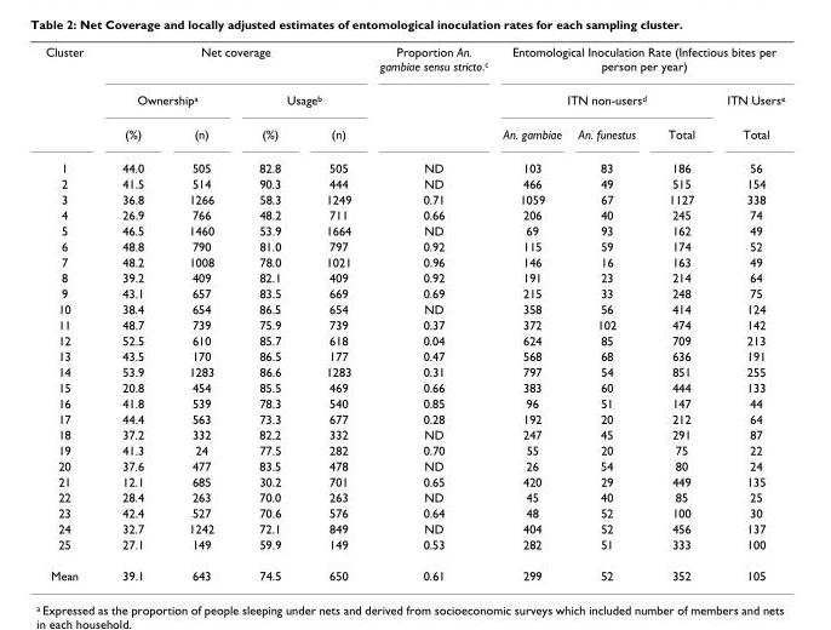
<table><tbody><tr><td rowspan="3">Cluster</td><td colspan="4">Net coverage</td><td>Proportion An. gambiae sensu stricto.<sup>c</sup></td><td colspan="4">Entomological Inoculation Rate (Infectious bites per person per year)</td></tr><tr><td colspan="2">Ownership<sup>a</sup></td><td colspan="2">Usage<sup>b</sup></td><td></td><td colspan="3">ITN non-users<sup>d</sup></td><td>ITN Users<sup>e</sup></td></tr><tr><td>(%)</td><td>(n)</td><td>(%)</td><td>(n)</td><td></td><td>An. gambiae</td><td>An. funestus</td><td>Total</td><td>Total</td></tr><tr><td>1</td><td>44.0</td><td>505</td><td>82.8</td><td>505</td><td>ND</td><td>103</td><td>83</td><td>186</td><td>56</td></tr><tr><td>2</td><td>41.5</td><td>514</td><td>90.3</td><td>444</td><td>ND</td><td>466</td><td>49</td><td>515</td><td>154</td></tr><tr><td>3</td><td>36.8</td><td>1266</td><td>58.3</td><td>1249</td><td>0.71</td><td>1059</td><td>67</td><td>1127</td><td>338</td></tr><tr><td>4</td><td>26.9</td><td>766</td><td>48.2</td><td>711</td><td>0.66</td><td>206</td><td>40</td><td>245</td><td>74</td></tr><tr><td>5</td><td>46.5</td><td>1460</td><td>53.9</td><td>1664</td><td>ND</td><td>69</td><td>93</td><td>162</td><td>49</td></tr><tr><td>6</td><td>48.8</td><td>790</td><td>81.0</td><td>797</td><td>0.92</td><td>115</td><td>59</td><td>174</td><td>52</td></tr><tr><td>7</td><td>48.2</td><td>1008</td><td>78.0</td><td>1021</td><td>0.96</td><td>146</td><td>16</td><td>163</td><td>49</td></tr><tr><td>8</td><td>39.2</td><td>409</td><td>82.1</td><td>409</td><td>0.92</td><td>191</td><td>23</td><td>214</td><td>64</td></tr><tr><td>9</td><td>43.1</td><td>657</td><td>83.5</td><td>669</td><td>0.69</td><td>215</td><td>33</td><td>248</td><td>75</td></tr><tr><td>10</td><td>38.4</td><td>654</td><td>86.5</td><td>654</td><td>ND</td><td>358</td><td>56</td><td>414</td><td>124</td></tr><tr><td>11</td><td>48.7</td><td>739</td><td>75.9</td><td>739</td><td>0.37</td><td>372</td><td>102</td><td>474</td><td>142</td></tr><tr><td>12</td><td>52.5</td><td>610</td><td>85.7</td><td>618</td><td>0.04</td><td>624</td><td>85</td><td>709</td><td>213</td></tr><tr><td>13</td><td>43.5</td><td>170</td><td>86.5</td><td>177</td><td>0.47</td><td>568</td><td>68</td><td>636</td><td>191</td></tr><tr><td>14</td><td>53.9</td><td>1283</td><td>86.6</td><td>1283</td><td>0.31</td><td>797</td><td>54</td><td>851</td><td>255</td></tr><tr><td>15</td><td>20.8</td><td>454</td><td>85.5</td><td>469</td><td>0.66</td><td>383</td><td>60</td><td>444</td><td>133</td></tr><tr><td>16</td><td>41.8</td><td>539</td><td>78.3</td><td>540</td><td>0.85</td><td>96</td><td>51</td><td>147</td><td>44</td></tr><tr><td>17</td><td>44.4</td><td>563</td><td>73.3</td><td>677</td><td>0.28</td><td>192</td><td>20</td><td>212</td><td>64</td></tr><tr><td>18</td><td>37.2</td><td>332</td><td>82.2</td><td>332</td><td>ND</td><td>247</td><td>45</td><td>291</td><td>87</td></tr><tr><td>19</td><td>41.3</td><td>24</td><td>77.5</td><td>282</td><td>0.70</td><td>55</td><td>20</td><td>75</td><td>22</td></tr><tr><td>20</td><td>37.6</td><td>477</td><td>83.5</td><td>478</td><td>ND</td><td>26</td><td>54</td><td>80</td><td>24</td></tr><tr><td>21</td><td>12.1</td><td>685</td><td>30.2</td><td>701</td><td>0.65</td><td>420</td><td>29</td><td>449</td><td>135</td></tr><tr><td>22</td><td>28.4</td><td>263</td><td>70.0</td><td>263</td><td>ND</td><td>45</td><td>40</td><td>85</td><td>25</td></tr><tr><td>23</td><td>42.4</td><td>527</td><td>70.6</td><td>576</td><td>0.64</td><td>48</td><td>52</td><td>100</td><td>30</td></tr><tr><td>24</td><td>32.7</td><td>1242</td><td>72.1</td><td>849</td><td>ND</td><td>404</td><td>52</td><td>456</td><td>137</td></tr><tr><td>25</td><td>27.1</td><td>149</td><td>59.9</td><td>149</td><td>0.53</td><td>282</td><td>51</td><td>333</td><td>100</td></tr><tr><td>Mean</td><td>39.1</td><td>643</td><td>74.5</td><td>650</td><td>0.61</td><td>299</td><td>52</td><td>352</td><td>105</td></tr></tbody></table>